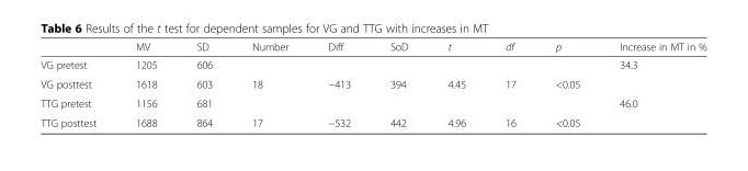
<table><thead><tr><td></td><td>MV</td><td>SD</td><td>Number</td><td>Diff</td><td>SoD</td><td>t</td><td>df</td><td>p</td><td>Increase in MT in %</td></tr></thead><tbody><tr><td>VG pretest</td><td>1205</td><td>606</td><td colspan="6"></td><td rowspan="2">34.3</td></tr><tr><td>VG posttest</td><td>1618</td><td>603</td><td>18</td><td>−413</td><td>394</td><td>4.45</td><td>17</td><td>&lt;0.05</td></tr><tr><td>TTG pretest</td><td>1156</td><td>681</td><td colspan="6"></td><td rowspan="2">46.0</td></tr><tr><td>TTG posttest</td><td>1688</td><td>864</td><td>17</td><td>−532</td><td>442</td><td>4.96</td><td>16</td><td>&lt;0.05</td></tr></tbody></table>